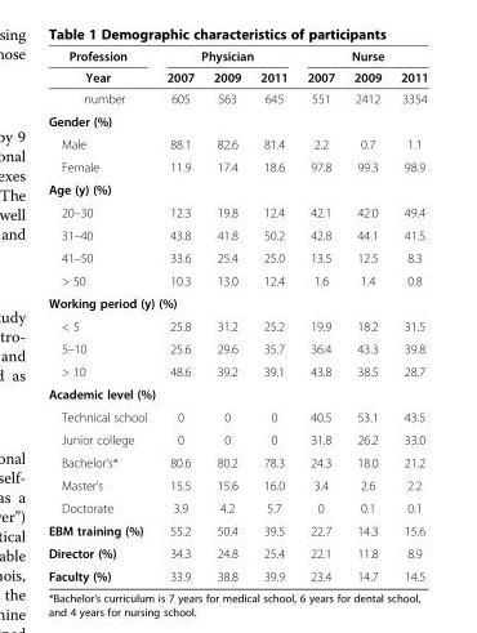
<table><thead><tr><td rowspan="2">Profession Year</td><td colspan="3">Physician</td><td colspan="3">Nurse</td></tr><tr><td>2007</td><td>2009</td><td>2011</td><td>2007</td><td>2009</td><td>2011</td></tr></thead><tbody><tr><td>number</td><td>605</td><td>563</td><td>645</td><td>551</td><td>2412</td><td>3354</td></tr><tr><td colspan="7">Gender (%)</td></tr><tr><td>Male</td><td>88.1</td><td>82.6</td><td>81.4</td><td>2.2</td><td>0.7</td><td>1.1</td></tr><tr><td>Female</td><td>11.9</td><td>17.4</td><td>18.6</td><td>97.8</td><td>99.3</td><td>98.9</td></tr><tr><td colspan="7">Age (y) (%)</td></tr><tr><td>20–30</td><td>12.3</td><td>19.8</td><td>12.4</td><td>42.1</td><td>42.0</td><td>49.4</td></tr><tr><td>31–40</td><td>43.8</td><td>41.8</td><td>50.2</td><td>42.8</td><td>44.1</td><td>41.5</td></tr><tr><td>41–50</td><td>33.6</td><td>25.4</td><td>25.0</td><td>13.5</td><td>12.5</td><td>8.3</td></tr><tr><td>&gt; 50</td><td>10.3</td><td>13.0</td><td>12.4</td><td>1.6</td><td>1.4</td><td>0.8</td></tr><tr><td colspan="7">Working period (y) (%)</td></tr><tr><td>&lt; 5</td><td>25.8</td><td>31.2</td><td>25.2</td><td>19.9</td><td>18.2</td><td>31.5</td></tr><tr><td>5–10</td><td>25.6</td><td>29.6</td><td>35.7</td><td>36.4</td><td>43.3</td><td>39.8</td></tr><tr><td>&gt; 10</td><td>48.6</td><td>39.2</td><td>39.1</td><td>43.8</td><td>38.5</td><td>28.7</td></tr><tr><td colspan="7">Academic level (%)</td></tr><tr><td>Technical school</td><td>0</td><td>0</td><td>0</td><td>40.5</td><td>53.1</td><td>43.5</td></tr><tr><td>Junior college</td><td>0</td><td>0</td><td>0</td><td>31.8</td><td>26.2</td><td>33.0</td></tr><tr><td>Bachelor’s*</td><td>80.6</td><td>80.2</td><td>78.3</td><td>24.3</td><td>18.0</td><td>21.2</td></tr><tr><td>Master’s</td><td>15.5</td><td>15.6</td><td>16.0</td><td>3.4</td><td>2.6</td><td>2.2</td></tr><tr><td>Doctorate</td><td>3.9</td><td>4.2</td><td>5.7</td><td>0</td><td>0.1</td><td>0.1</td></tr><tr><td>EBM training (%)</td><td>55.2</td><td>50.4</td><td>39.5</td><td>22.7</td><td>14.3</td><td>15.6</td></tr><tr><td>Director (%)</td><td>34.3</td><td>24.8</td><td>25.4</td><td>22.1</td><td>11.8</td><td>8.9</td></tr><tr><td>Faculty (%)</td><td>33.9</td><td>38.8</td><td>39.9</td><td>23.4</td><td>14.7</td><td>14.5</td></tr></tbody></table>